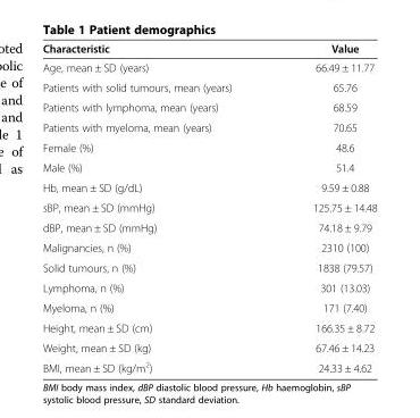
<table><thead><tr><td>Characteristic</td><td>Value</td></tr></thead><tbody><tr><td>Age, mean ± SD (years)</td><td>66.49 ± 11.77</td></tr><tr><td>Patients with solid tumours, mean (years)</td><td>65.76</td></tr><tr><td>Patients with lymphoma, mean (years)</td><td>68.59</td></tr><tr><td>Patients with myeloma, mean (years)</td><td>70.65</td></tr><tr><td>Female (%)</td><td>48.6</td></tr><tr><td>Male (%)</td><td>51.4</td></tr><tr><td>Hb, mean ± SD (g/dL)</td><td>9.59 ± 0.88</td></tr><tr><td>sBP, mean ± SD (mmHg)</td><td>125.75 ± 14.48</td></tr><tr><td>dBP, mean ± SD (mmHg)</td><td>74.18 ± 9.79</td></tr><tr><td>Malignancies, n (%)</td><td>2310 (100)</td></tr><tr><td>Solid tumours, n (%)</td><td>1838 (79.57)</td></tr><tr><td>Lymphoma, n (%)</td><td>301 (13.03)</td></tr><tr><td>Myeloma, n (%)</td><td>171 (7.40)</td></tr><tr><td>Height, mean ± SD (cm)</td><td>166.35 ± 8.72</td></tr><tr><td>Weight, mean ± SD (kg)</td><td>67.46 ± 14.23</td></tr><tr><td>BMI, mean ± SD (kg/m<sup>2</sup>)</td><td>24.33 ± 4.62</td></tr></tbody></table>